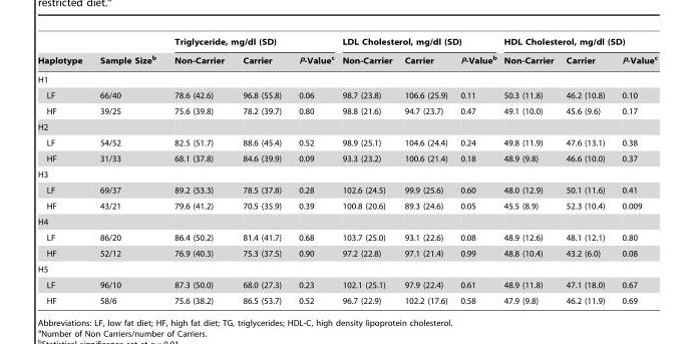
<table><thead><tr><td rowspan="2">Haplotype</td><td rowspan="2">Sample Size<sup>b</sup></td><td colspan="3">Triglyceride, mg/dl (SD)</td><td colspan="3">LDL Cholesterol, mg/dl (SD)</td><td colspan="3">HDL Cholesterol, mg/dl (SD)</td></tr><tr><td>Non-Carrier</td><td>Carrier</td><td>P-Value<sup>c</sup></td><td>Non-Carrier</td><td>Carrier</td><td>P-Value<sup>b</sup></td><td>Non-Carrier</td><td>Carrier</td><td>P-Value<sup>c</sup></td></tr></thead><tbody><tr><td colspan="11">H1</td></tr><tr><td>LF</td><td>66/40</td><td>78.6 (42.6)</td><td>96.8 (55.8)</td><td>0.06</td><td>98.7 (23.8)</td><td>106.6 (25.9)</td><td>0.11</td><td>50.3 (11.8)</td><td>46.2 (10.8)</td><td>0.10</td></tr><tr><td>HF</td><td>39/25</td><td>75.6 (39.8)</td><td>78.2 (39.7)</td><td>0.80</td><td>98.8 (21.6)</td><td>94.7 (23.7)</td><td>0.47</td><td>49.1 (10.0)</td><td>45.6 (9.6)</td><td>0.17</td></tr><tr><td colspan="11">H2</td></tr><tr><td>LF</td><td>54/52</td><td>82.5 (51.7)</td><td>88.6 (45.4)</td><td>0.52</td><td>98.9 (25.1)</td><td>104.6 (24.4)</td><td>0.24</td><td>49.8 (11.9)</td><td>47.6 (13.1)</td><td>0.38</td></tr><tr><td>HF</td><td>31/33</td><td>68.1 (37.8)</td><td>84.6 (39.9)</td><td>0.09</td><td>93.3 (23.2)</td><td>100.6 (21.4)</td><td>0.18</td><td>48.9 (9.8)</td><td>46.6 (10.0)</td><td>0.37</td></tr><tr><td colspan="11">H3</td></tr><tr><td>LF</td><td>69/37</td><td>89.2 (53.3)</td><td>78.5 (37.8)</td><td>0.28</td><td>102.6 (24.5)</td><td>99.9 (25.6)</td><td>0.60</td><td>48.0 (12.9)</td><td>50.1 (11.6)</td><td>0.41</td></tr><tr><td>HF</td><td>43/21</td><td>79.6 (41.2)</td><td>70.5 (35.9)</td><td>0.39</td><td>100.8 (20.6)</td><td>89.3 (24.6)</td><td>0.05</td><td>45.5 (8.9)</td><td>52.3 (10.4)</td><td>0.009</td></tr><tr><td colspan="11">H4</td></tr><tr><td>LF</td><td>86/20</td><td>86.4 (50.2)</td><td>81.4 (41.7)</td><td>0.68</td><td>103.7 (25.0)</td><td>93.1 (22.6)</td><td>0.08</td><td>48.9 (12.6)</td><td>48.1 (12.1)</td><td>0.80</td></tr><tr><td>HF</td><td>52/12</td><td>76.9 (40.3)</td><td>75.3 (37.5)</td><td>0.90</td><td>97.2 (22.8)</td><td>97.1 (21.4)</td><td>0.99</td><td>48.8 (10.4)</td><td>43.2 (6.0)</td><td>0.08</td></tr><tr><td colspan="11">H5</td></tr><tr><td>LF</td><td>96/10</td><td>87.3 (50.0)</td><td>68.0 (27.3)</td><td>0.23</td><td>102.1 (25.1)</td><td>97.9 (22.4)</td><td>0.61</td><td>48.9 (11.8)</td><td>47.1 (18.0)</td><td>0.67</td></tr><tr><td>HF</td><td>58/6</td><td>75.6 (38.2)</td><td>86.5 (53.7)</td><td>0.52</td><td>96.7 (22.9)</td><td>102.2 (17.6)</td><td>0.58</td><td>47.9 (9.8)</td><td>46.2 (11.9)</td><td>0.69</td></tr></tbody></table>